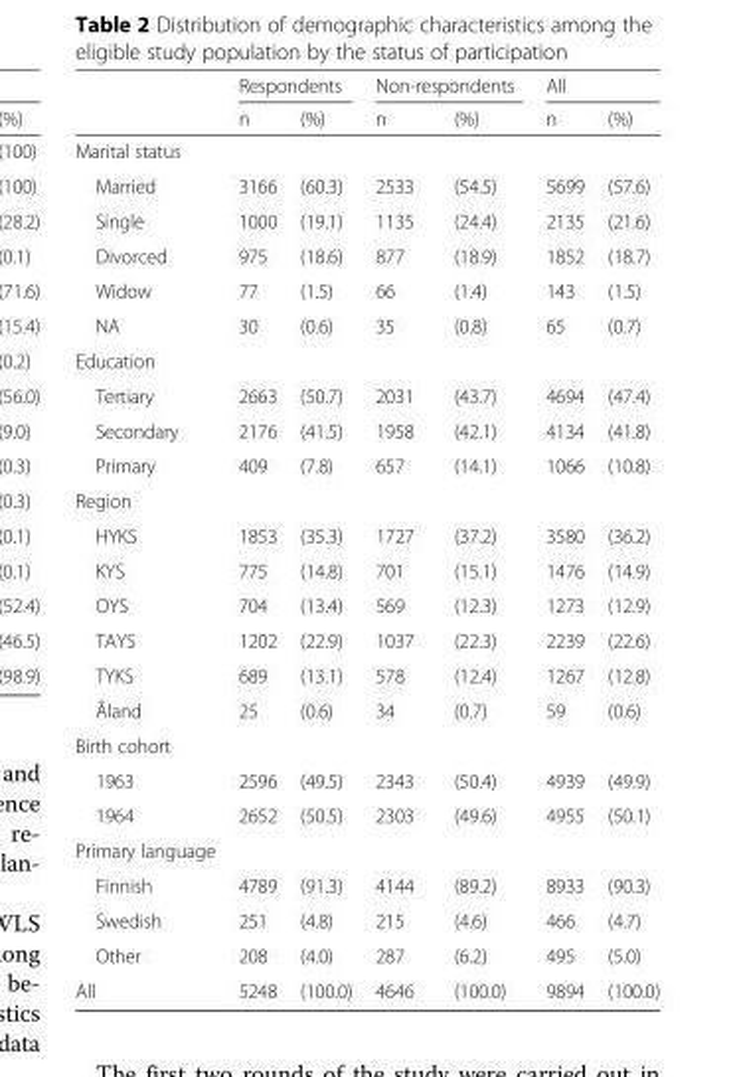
<table><thead><tr><td rowspan="2"></td><td colspan="2">Respondents</td><td colspan="2">Non-respondents</td><td colspan="2">All</td></tr><tr><td>n</td><td>(%)</td><td>n</td><td>(%)</td><td>n</td><td>(%)</td></tr></thead><tbody><tr><td colspan="7">Marital status</td></tr><tr><td>Married</td><td>3166</td><td>(60.3)</td><td>2533</td><td>(54.5)</td><td>5699</td><td>(57.6)</td></tr><tr><td>Single</td><td>1000</td><td>(19.1)</td><td>1135</td><td>(24.4)</td><td>2135</td><td>(21.6)</td></tr><tr><td>Divorced</td><td>975</td><td>(18.6)</td><td>877</td><td>(18.9)</td><td>1852</td><td>(18.7)</td></tr><tr><td>Widow</td><td>77</td><td>(1.5)</td><td>66</td><td>(1.4)</td><td>143</td><td>(1.5)</td></tr><tr><td>NA</td><td>30</td><td>(0.6)</td><td>35</td><td>(0.8)</td><td>65</td><td>(0.7)</td></tr><tr><td colspan="7">Education</td></tr><tr><td>Tertiary</td><td>2663</td><td>(50.7)</td><td>2031</td><td>(43.7)</td><td>4694</td><td>(47.4)</td></tr><tr><td>Secondary</td><td>2176</td><td>(41.5)</td><td>1958</td><td>(42.1)</td><td>4134</td><td>(41.8)</td></tr><tr><td>Primary</td><td>409</td><td>(7.8)</td><td>657</td><td>(14.1)</td><td>1066</td><td>(10.8)</td></tr><tr><td colspan="7">Region</td></tr><tr><td>HYKS</td><td>1853</td><td>(35.3)</td><td>1727</td><td>(37.2)</td><td>3580</td><td>(36.2)</td></tr><tr><td>KYS</td><td>775</td><td>(14.8)</td><td>701</td><td>(15.1)</td><td>1476</td><td>(14.9)</td></tr><tr><td>OYS</td><td>704</td><td>(13.4)</td><td>569</td><td>(12.3)</td><td>1273</td><td>(12.9)</td></tr><tr><td>TAYS</td><td>1202</td><td>(22.9)</td><td>1037</td><td>(22.3)</td><td>2239</td><td>(22.6)</td></tr><tr><td>TYKS</td><td>689</td><td>(13.1)</td><td>578</td><td>(12.4)</td><td>1267</td><td>(12.8)</td></tr><tr><td>Åland</td><td>25</td><td>(0.6)</td><td>34</td><td>(0.7)</td><td>59</td><td>(0.6)</td></tr><tr><td colspan="7">Birth cohort</td></tr><tr><td>1963</td><td>2596</td><td>(49.5)</td><td>2343</td><td>(50.4)</td><td>4939</td><td>(49.9)</td></tr><tr><td>1964</td><td>2652</td><td>(50.5)</td><td>2303</td><td>(49.6)</td><td>4955</td><td>(50.1)</td></tr><tr><td colspan="7">Primary language</td></tr><tr><td>Finnish</td><td>4789</td><td>(91.3)</td><td>4144</td><td>(89.2)</td><td>8933</td><td>(90.3)</td></tr><tr><td>Swedish</td><td>251</td><td>(4.8)</td><td>215</td><td>(4.6)</td><td>466</td><td>(4.7)</td></tr><tr><td>Other</td><td>208</td><td>(4.0)</td><td>287</td><td>(6.2)</td><td>495</td><td>(5.0)</td></tr><tr><td>All</td><td>5248</td><td>(100.0)</td><td>4646</td><td>(100.0)</td><td>9894</td><td>(100.0)</td></tr></tbody></table>